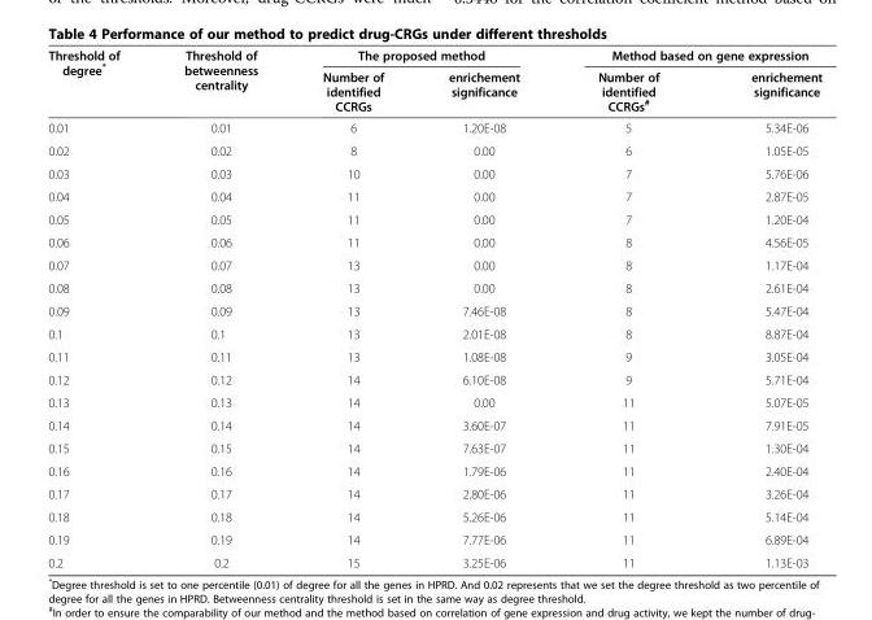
<table><thead><tr><td rowspan="2">Threshold of degree*</td><td rowspan="2">Threshold of betweenness centrality</td><td colspan="2">The proposed method</td><td colspan="2">Method based on gene expression</td></tr><tr><td>Number of identified CCRGs</td><td>enrichement significance</td><td>Number of identified CCRGs<sup>#</sup></td><td>enrichement significance</td></tr></thead><tbody><tr><td>0.01</td><td>0.01</td><td>6</td><td>1.20E-08</td><td>5</td><td>5.34E-06</td></tr><tr><td>0.02</td><td>0.02</td><td>8</td><td>0.00</td><td>6</td><td>1.05E-05</td></tr><tr><td>0.03</td><td>0.03</td><td>10</td><td>0.00</td><td>7</td><td>5.76E-06</td></tr><tr><td>0.04</td><td>0.04</td><td>11</td><td>0.00</td><td>7</td><td>2.87E-05</td></tr><tr><td>0.05</td><td>0.05</td><td>11</td><td>0.00</td><td>7</td><td>1.20E-04</td></tr><tr><td>0.06</td><td>0.06</td><td>11</td><td>0.00</td><td>8</td><td>4.56E-05</td></tr><tr><td>0.07</td><td>0.07</td><td>13</td><td>0.00</td><td>8</td><td>1.17E-04</td></tr><tr><td>0.08</td><td>0.08</td><td>13</td><td>0.00</td><td>8</td><td>2.61E-04</td></tr><tr><td>0.09</td><td>0.09</td><td>13</td><td>7.46E-08</td><td>8</td><td>5.47E-04</td></tr><tr><td>0.1</td><td>0.1</td><td>13</td><td>2.01E-08</td><td>8</td><td>8.87E-04</td></tr><tr><td>0.11</td><td>0.11</td><td>13</td><td>1.08E-08</td><td>9</td><td>3.05E-04</td></tr><tr><td>0.12</td><td>0.12</td><td>14</td><td>6.10E-08</td><td>9</td><td>5.71E-04</td></tr><tr><td>0.13</td><td>0.13</td><td>14</td><td>0.00</td><td>11</td><td>5.07E-05</td></tr><tr><td>0.14</td><td>0.14</td><td>14</td><td>3.60E-07</td><td>11</td><td>7.91E-05</td></tr><tr><td>0.15</td><td>0.15</td><td>14</td><td>7.63E-07</td><td>11</td><td>1.30E-04</td></tr><tr><td>0.16</td><td>0.16</td><td>14</td><td>1.79E-06</td><td>11</td><td>2.40E-04</td></tr><tr><td>0.17</td><td>0.17</td><td>14</td><td>2.80E-06</td><td>11</td><td>3.26E-04</td></tr><tr><td>0.18</td><td>0.18</td><td>14</td><td>5.26E-06</td><td>11</td><td>5.14E-04</td></tr><tr><td>0.19</td><td>0.19</td><td>14</td><td>7.77E-06</td><td>11</td><td>6.89E-04</td></tr><tr><td>0.2</td><td>0.2</td><td>15</td><td>3.25E-06</td><td>11</td><td>1.13E-03</td></tr></tbody></table>